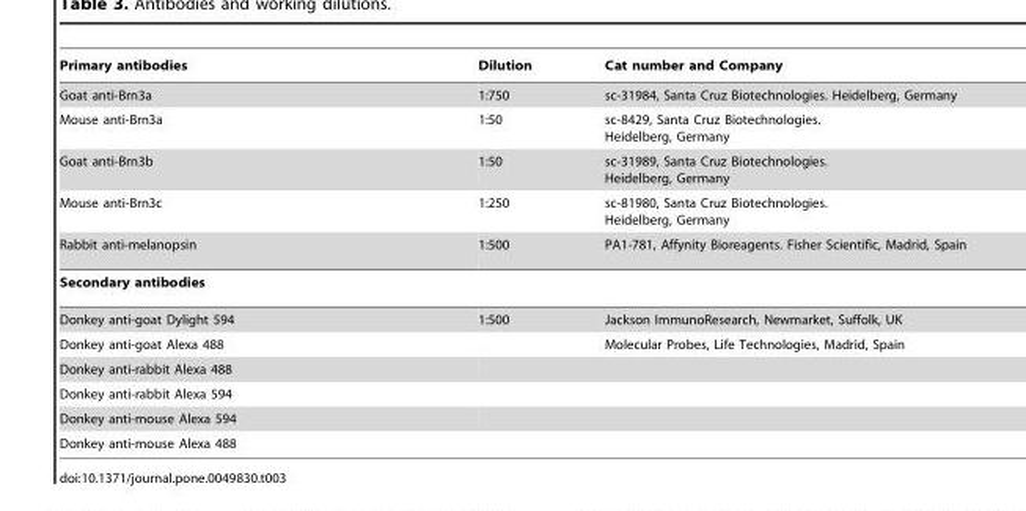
<table><thead><tr><td>Primary antibodies</td><td>Dilution</td><td>Cat number and Company</td></tr></thead><tbody><tr><td>Goat anti-Brn3a</td><td>1:750</td><td>sc-31984, Santa Cruz Biotechnologies. Heidelberg, Germany</td></tr><tr><td>Mouse anti-Brn3a</td><td>1:50</td><td>sc-8429, Santa Cruz Biotechnologies. Heidelberg, Germany</td></tr><tr><td>Goat anti-Brn3b</td><td>1:50</td><td>sc-31989, Santa Cruz Biotechnologies. Heidelberg, Germany</td></tr><tr><td>Mouse anti-Brn3c</td><td>1:250</td><td>sc-81980, Santa Cruz Biotechnologies. Heidelberg, Germany</td></tr><tr><td>Rabbit anti-melanopsin</td><td>1:500</td><td>PA1-781, Affynity Bioreagents. Fisher Scientific, Madrid, Spain</td></tr><tr><td colspan="3">Secondary antibodies</td></tr><tr><td>Donkey anti-goat Dylight 594</td><td>1:500</td><td>Jackson ImmunoResearch, Newmarket, Suffolk, UK</td></tr><tr><td>Donkey anti-goat Alexa 488</td><td></td><td>Molecular Probes, Life Technologies, Madrid, Spain</td></tr><tr><td colspan="3">Donkey anti-rabbit Alexa 488</td></tr><tr><td colspan="3">Donkey anti-rabbit Alexa 594</td></tr><tr><td colspan="3">Donkey anti-mouse Alexa 594</td></tr><tr><td>Donkey anti-mouse Alexa 488</td><td></td><td></td></tr></tbody></table>